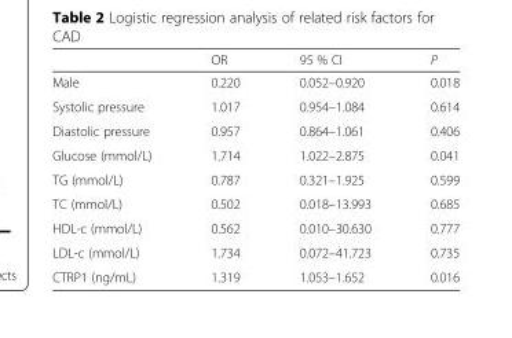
<table><thead><tr><td></td><td>OR</td><td>95 % CI</td><td>P</td></tr></thead><tbody><tr><td>Male</td><td>0.220</td><td>0.052–0.920</td><td>0.018</td></tr><tr><td>Systolic pressure</td><td>1.017</td><td>0.954–1.084</td><td>0.614</td></tr><tr><td>Diastolic pressure</td><td>0.957</td><td>0.864–1.061</td><td>0.406</td></tr><tr><td>Glucose (mmol/L)</td><td>1.714</td><td>1.022–2.875</td><td>0.041</td></tr><tr><td>TG (mmol/L)</td><td>0.787</td><td>0.321–1.925</td><td>0.599</td></tr><tr><td>TC (mmol/L)</td><td>0.502</td><td>0.018–13.993</td><td>0.685</td></tr><tr><td>HDL-c (mmol/L)</td><td>0.562</td><td>0.010–30.630</td><td>0.777</td></tr><tr><td>LDL-c (mmol/L)</td><td>1.734</td><td>0.072–41.723</td><td>0.735</td></tr><tr><td>CTRP1 (ng/mL)</td><td>1.319</td><td>1.053–1.652</td><td>0.016</td></tr></tbody></table>